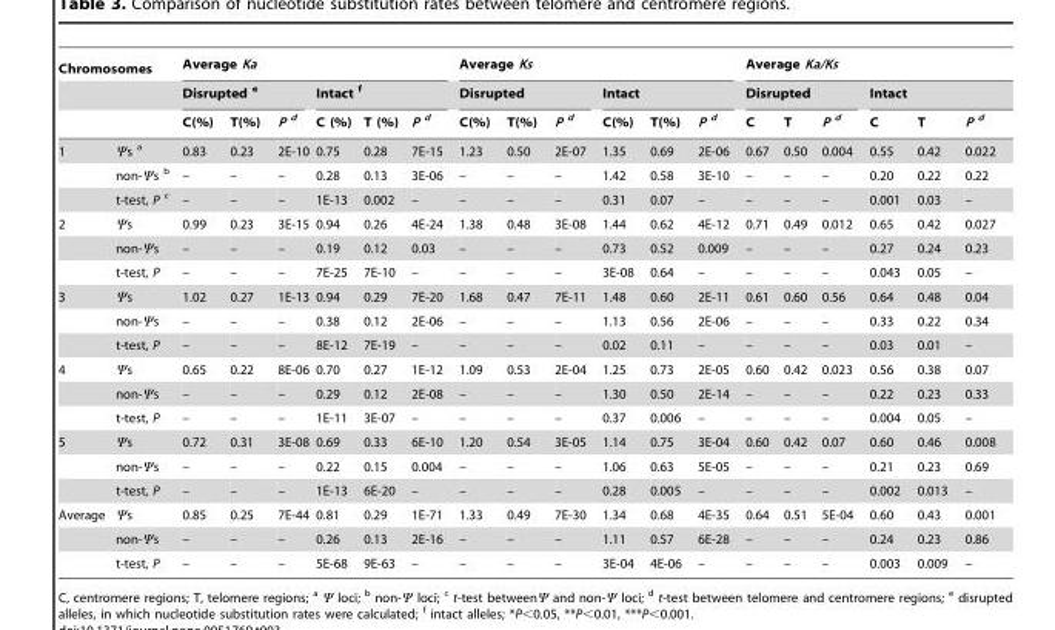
<table><thead><tr><td colspan="2">Chromosomes</td><td colspan="6">Average Ka</td><td colspan="6">Average Ks</td><td colspan="6">Average Ka/Ks</td></tr><tr><td rowspan="2"></td><td rowspan="2"></td><td colspan="3">Disrupted <sup>e</sup></td><td colspan="3">Intact <sup>f</sup></td><td colspan="3">Disrupted</td><td colspan="3">Intact</td><td colspan="3">Disrupted</td><td colspan="3">Intact</td></tr><tr><td>C(%)</td><td>T(%)</td><td>P <sup>d</sup></td><td>C (%)</td><td>T (%)</td><td>P <sup>d</sup></td><td>C(%)</td><td>T(%)</td><td>P <sup>d</sup></td><td>C(%)</td><td>T(%)</td><td>P <sup>d</sup></td><td>C</td><td>T</td><td>P <sup>d</sup></td><td>C</td><td>T</td><td>P <sup>d</sup></td></tr></thead><tbody><tr><td rowspan="3">1</td><td>Ψs <sup>a</sup></td><td>0.83</td><td>0.23</td><td>2E-10</td><td>0.75</td><td>0.28</td><td>7E-15</td><td>1.23</td><td>0.50</td><td>2E-07</td><td>1.35</td><td>0.69</td><td>2E-06</td><td>0.67</td><td>0.50</td><td>0.004</td><td>0.55</td><td>0.42</td><td>0.022</td></tr><tr><td>non-Ψs <sup>b</sup></td><td>–</td><td>–</td><td>–</td><td>0.28</td><td>0.13</td><td>3E-06</td><td>–</td><td>–</td><td>–</td><td>1.42</td><td>0.58</td><td>3E-10</td><td>–</td><td>–</td><td>–</td><td>0.20</td><td>0.22</td><td>0.22</td></tr><tr><td>t-test, P <sup>c</sup></td><td>–</td><td>–</td><td>–</td><td>1E-13</td><td>0.002</td><td>–</td><td>–</td><td>–</td><td>–</td><td>0.31</td><td>0.07</td><td>–</td><td>–</td><td>–</td><td>–</td><td>0.001</td><td>0.03</td><td>–</td></tr><tr><td rowspan="3">2</td><td>Ψs</td><td>0.99</td><td>0.23</td><td>3E-15</td><td>0.94</td><td>0.26</td><td>4E-24</td><td>1.38</td><td>0.48</td><td>3E-08</td><td>1.44</td><td>0.62</td><td>4E-12</td><td>0.71</td><td>0.49</td><td>0.012</td><td>0.65</td><td>0.42</td><td>0.027</td></tr><tr><td>non-Ψs</td><td>–</td><td>–</td><td>–</td><td>0.19</td><td>0.12</td><td>0.03</td><td>–</td><td>–</td><td>–</td><td>0.73</td><td>0.52</td><td>0.009</td><td>–</td><td>–</td><td>–</td><td>0.27</td><td>0.24</td><td>0.23</td></tr><tr><td>t-test, P</td><td>–</td><td>–</td><td>–</td><td>7E-25</td><td>7E-10</td><td>–</td><td>–</td><td>–</td><td>–</td><td>3E-08</td><td>0.64</td><td>–</td><td>–</td><td>–</td><td>–</td><td>0.043</td><td>0.05</td><td>–</td></tr><tr><td rowspan="3">3</td><td>Ψs</td><td>1.02</td><td>0.27</td><td>1E-13</td><td>0.94</td><td>0.29</td><td>7E-20</td><td>1.68</td><td>0.47</td><td>7E-11</td><td>1.48</td><td>0.60</td><td>2E-11</td><td>0.61</td><td>0.60</td><td>0.56</td><td>0.64</td><td>0.48</td><td>0.04</td></tr><tr><td>non-Ψs</td><td>–</td><td>–</td><td>–</td><td>0.38</td><td>0.12</td><td>2E-06</td><td>–</td><td>–</td><td>–</td><td>1.13</td><td>0.56</td><td>2E-06</td><td>–</td><td>–</td><td>–</td><td>0.33</td><td>0.22</td><td>0.34</td></tr><tr><td>t-test, P</td><td>–</td><td>–</td><td>–</td><td>8E-12</td><td>7E-19</td><td>–</td><td>–</td><td>–</td><td>–</td><td>0.02</td><td>0.11</td><td>–</td><td>–</td><td>–</td><td>–</td><td>0.03</td><td>0.01</td><td>–</td></tr><tr><td rowspan="3">4</td><td>Ψs</td><td>0.65</td><td>0.22</td><td>8E-06</td><td>0.70</td><td>0.27</td><td>1E-12</td><td>1.09</td><td>0.53</td><td>2E-04</td><td>1.25</td><td>0.73</td><td>2E-05</td><td>0.60</td><td>0.42</td><td>0.023</td><td>0.56</td><td>0.38</td><td>0.07</td></tr><tr><td>non-Ψs</td><td>–</td><td>–</td><td>–</td><td>0.29</td><td>0.12</td><td>2E-08</td><td>–</td><td>–</td><td>–</td><td>1.30</td><td>0.50</td><td>2E-14</td><td>–</td><td>–</td><td>–</td><td>0.22</td><td>0.23</td><td>0.33</td></tr><tr><td>t-test, P</td><td>–</td><td>–</td><td>–</td><td>1E-11</td><td>3E-07</td><td>–</td><td>–</td><td>–</td><td>–</td><td>0.37</td><td>0.006</td><td>–</td><td>–</td><td>–</td><td>–</td><td>0.004</td><td>0.05</td><td>–</td></tr><tr><td rowspan="3">5</td><td>Ψs</td><td>0.72</td><td>0.31</td><td>3E-08</td><td>0.69</td><td>0.33</td><td>6E-10</td><td>1.20</td><td>0.54</td><td>3E-05</td><td>1.14</td><td>0.75</td><td>3E-04</td><td>0.60</td><td>0.42</td><td>0.07</td><td>0.60</td><td>0.46</td><td>0.008</td></tr><tr><td>non-Ψs</td><td>–</td><td>–</td><td>–</td><td>0.22</td><td>0.15</td><td>0.004</td><td>–</td><td>–</td><td>–</td><td>1.06</td><td>0.63</td><td>5E-05</td><td>–</td><td>–</td><td>–</td><td>0.21</td><td>0.23</td><td>0.69</td></tr><tr><td>t-test, P</td><td>–</td><td>–</td><td>–</td><td>1E-13</td><td>6E-20</td><td>–</td><td>–</td><td>–</td><td>–</td><td>0.28</td><td>0.005</td><td>–</td><td>–</td><td>–</td><td>–</td><td>0.002</td><td>0.013</td><td>–</td></tr><tr><td rowspan="3">Average</td><td>Ψs</td><td>0.85</td><td>0.25</td><td>7E-44</td><td>0.81</td><td>0.29</td><td>1E-71</td><td>1.33</td><td>0.49</td><td>7E-30</td><td>1.34</td><td>0.68</td><td>4E-35</td><td>0.64</td><td>0.51</td><td>5E-04</td><td>0.60</td><td>0.43</td><td>0.001</td></tr><tr><td>non-Ψs</td><td>–</td><td>–</td><td>–</td><td>0.26</td><td>0.13</td><td>2E-16</td><td>–</td><td>–</td><td>–</td><td>1.11</td><td>0.57</td><td>6E-28</td><td>–</td><td>–</td><td>–</td><td>0.24</td><td>0.23</td><td>0.86</td></tr><tr><td>t-test, P</td><td>–</td><td>–</td><td>–</td><td>5E-68</td><td>9E-63</td><td>–</td><td>–</td><td>–</td><td>–</td><td>3E-04</td><td>4E-06</td><td>–</td><td>–</td><td>–</td><td>–</td><td>0.003</td><td>0.009</td><td>–</td></tr></tbody></table>